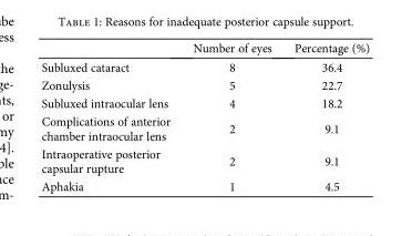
<table><thead><tr><td></td><td>Number of eyes</td><td>Percentage (%)</td></tr></thead><tbody><tr><td>Subluxed cataract</td><td>8</td><td>36.4</td></tr><tr><td>Zonulysis</td><td>5</td><td>22.7</td></tr><tr><td>Subluxed intraocular lens</td><td>4</td><td>18.2</td></tr><tr><td>Complications of anterior chamber intraocular lens</td><td>2</td><td>9.1</td></tr><tr><td>Intraoperative posterior capsular rupture</td><td>2</td><td>9.1</td></tr><tr><td>Aphakia</td><td>1</td><td>4.5</td></tr></tbody></table>